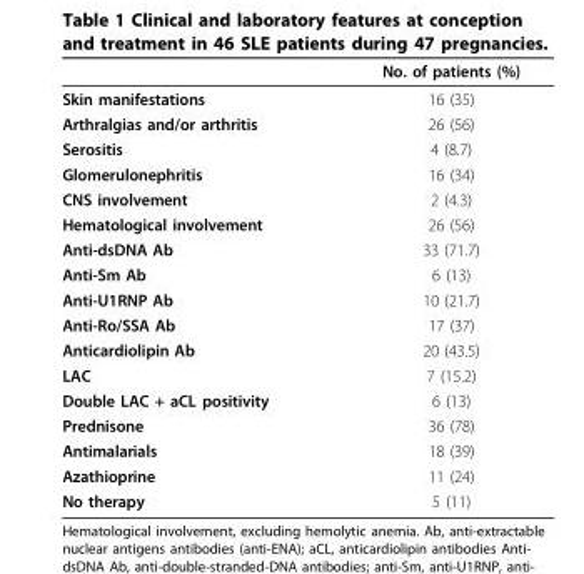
<table><thead><tr><td></td><td>No. of patients (%)</td></tr></thead><tbody><tr><td>Skin manifestations</td><td>16 (35)</td></tr><tr><td>Arthralgias and/or arthritis</td><td>26 (56)</td></tr><tr><td>Serositis</td><td>4 (8.7)</td></tr><tr><td>Glomerulonephritis</td><td>16 (34)</td></tr><tr><td>CNS involvement</td><td>2 (4.3)</td></tr><tr><td>Hematological involvement</td><td>26 (56)</td></tr><tr><td>Anti-dsDNA Ab</td><td>33 (71.7)</td></tr><tr><td>Anti-Sm Ab</td><td>6 (13)</td></tr><tr><td>Anti-U1RNP Ab</td><td>10 (21.7)</td></tr><tr><td>Anti-Ro/SSA Ab</td><td>17 (37)</td></tr><tr><td>Anticardiolipin Ab</td><td>20 (43.5)</td></tr><tr><td>LAC</td><td>7 (15.2)</td></tr><tr><td>Double LAC + aCL positivity</td><td>6 (13)</td></tr><tr><td>Prednisone</td><td>36 (78)</td></tr><tr><td>Antimalarials</td><td>18 (39)</td></tr><tr><td>Azathioprine</td><td>11 (24)</td></tr><tr><td>No therapy</td><td>5 (11)</td></tr></tbody></table>